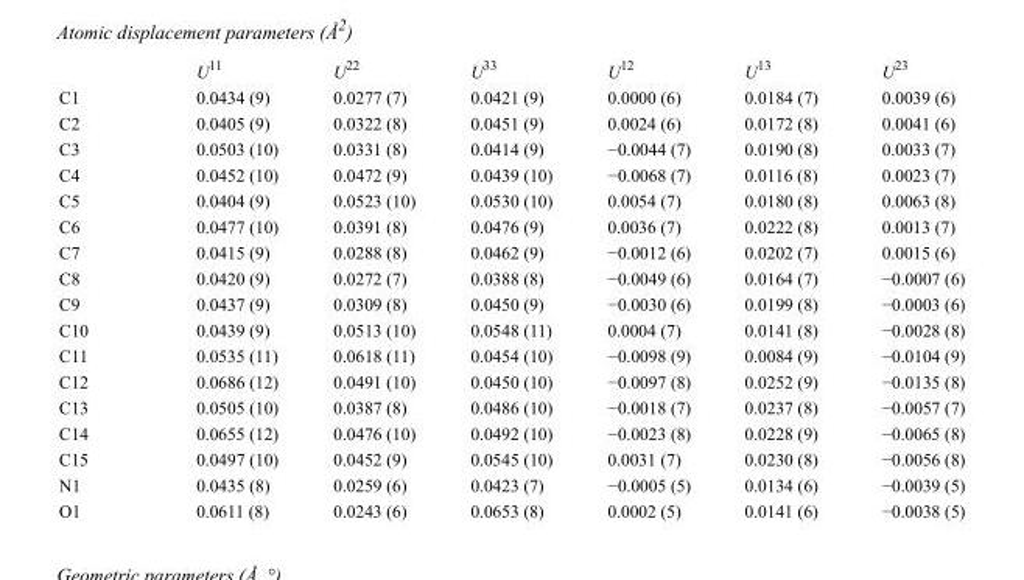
<table><thead><tr><td></td><td>U<sup>11</sup></td><td>U<sup>22</sup></td><td>U<sup>33</sup></td><td>U<sup>12</sup></td><td>U<sup>13</sup></td><td>U<sup>23</sup></td></tr></thead><tbody><tr><td>C1</td><td>0.0434 (9)</td><td>0.0277 (7)</td><td>0.0421 (9)</td><td>0.0000 (6)</td><td>0.0184 (7)</td><td>0.0039 (6)</td></tr><tr><td>C2</td><td>0.0405 (9)</td><td>0.0322 (8)</td><td>0.0451 (9)</td><td>0.0024 (6)</td><td>0.0172 (8)</td><td>0.0041 (6)</td></tr><tr><td>C3</td><td>0.0503 (10)</td><td>0.0331 (8)</td><td>0.0414 (9)</td><td>−0.0044 (7)</td><td>0.0190 (8)</td><td>0.0033 (7)</td></tr><tr><td>C4</td><td>0.0452 (10)</td><td>0.0472 (9)</td><td>0.0439 (10)</td><td>−0.0068 (7)</td><td>0.0116 (8)</td><td>0.0023 (7)</td></tr><tr><td>C5</td><td>0.0404 (9)</td><td>0.0523 (10)</td><td>0.0530 (10)</td><td>0.0054 (7)</td><td>0.0180 (8)</td><td>0.0063 (8)</td></tr><tr><td>C6</td><td>0.0477 (10)</td><td>0.0391 (8)</td><td>0.0476 (9)</td><td>0.0036 (7)</td><td>0.0222 (8)</td><td>0.0013 (7)</td></tr><tr><td>C7</td><td>0.0415 (9)</td><td>0.0288 (8)</td><td>0.0462 (9)</td><td>−0.0012 (6)</td><td>0.0202 (7)</td><td>0.0015 (6)</td></tr><tr><td>C8</td><td>0.0420 (9)</td><td>0.0272 (7)</td><td>0.0388 (8)</td><td>−0.0049 (6)</td><td>0.0164 (7)</td><td>−0.0007 (6)</td></tr><tr><td>C9</td><td>0.0437 (9)</td><td>0.0309 (8)</td><td>0.0450 (9)</td><td>−0.0030 (6)</td><td>0.0199 (8)</td><td>−0.0003 (6)</td></tr><tr><td>C10</td><td>0.0439 (9)</td><td>0.0513 (10)</td><td>0.0548 (11)</td><td>0.0004 (7)</td><td>0.0141 (8)</td><td>−0.0028 (8)</td></tr><tr><td>C11</td><td>0.0535 (11)</td><td>0.0618 (11)</td><td>0.0454 (10)</td><td>−0.0098 (9)</td><td>0.0084 (9)</td><td>−0.0104 (9)</td></tr><tr><td>C12</td><td>0.0686 (12)</td><td>0.0491 (10)</td><td>0.0450 (10)</td><td>−0.0097 (8)</td><td>0.0252 (9)</td><td>−0.0135 (8)</td></tr><tr><td>C13</td><td>0.0505 (10)</td><td>0.0387 (8)</td><td>0.0486 (10)</td><td>−0.0018 (7)</td><td>0.0237 (8)</td><td>−0.0057 (7)</td></tr><tr><td>C14</td><td>0.0655 (12)</td><td>0.0476 (10)</td><td>0.0492 (10)</td><td>−0.0023 (8)</td><td>0.0228 (9)</td><td>−0.0065 (8)</td></tr><tr><td>C15</td><td>0.0497 (10)</td><td>0.0452 (9)</td><td>0.0545 (10)</td><td>0.0031 (7)</td><td>0.0230 (8)</td><td>−0.0056 (8)</td></tr><tr><td>N1</td><td>0.0435 (8)</td><td>0.0259 (6)</td><td>0.0423 (7)</td><td>−0.0005 (5)</td><td>0.0134 (6)</td><td>−0.0039 (5)</td></tr><tr><td>O1</td><td>0.0611 (8)</td><td>0.0243 (6)</td><td>0.0653 (8)</td><td>0.0002 (5)</td><td>0.0141 (6)</td><td>−0.0038 (5)</td></tr></tbody></table>